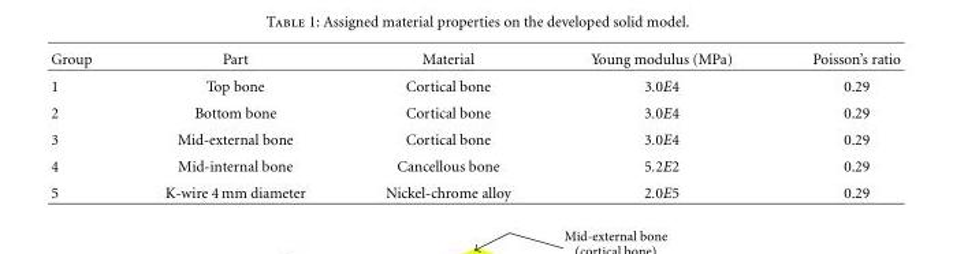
<table><thead><tr><td>Group</td><td>Part</td><td>Material</td><td>Young modulus (MPa)</td><td>Poisson’s ratio</td></tr></thead><tbody><tr><td>1</td><td>Top bone</td><td>Cortical bone</td><td>3.0E4</td><td>0.29</td></tr><tr><td>2</td><td>Bottom bone</td><td>Cortical bone</td><td>3.0E4</td><td>0.29</td></tr><tr><td>3</td><td>Mid-external bone</td><td>Cortical bone</td><td>3.0E4</td><td>0.29</td></tr><tr><td>4</td><td>Mid-internal bone</td><td>Cancellous bone</td><td>5.2E2</td><td>0.29</td></tr><tr><td>5</td><td>K-wire 4 mm diameter</td><td>Nickel-chrome alloy</td><td>2.0E5</td><td>0.29</td></tr></tbody></table>